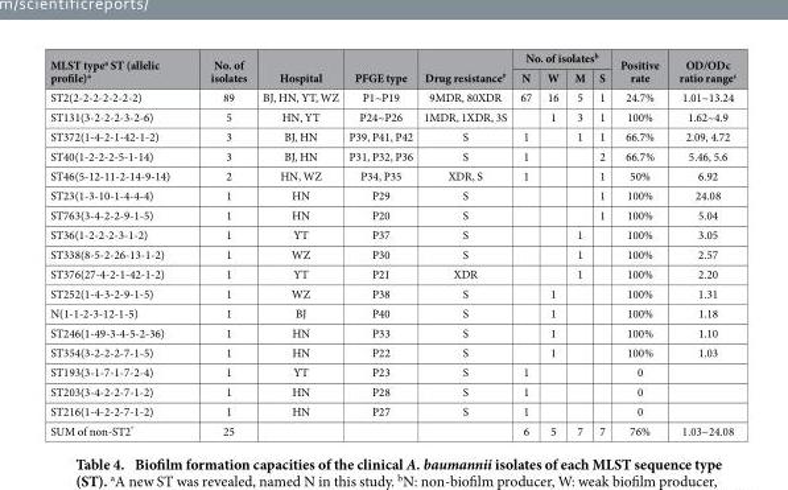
<table><thead><tr><td rowspan="2">MLST type<sup>a</sup> ST (allelic profile)<sup>a</sup></td><td rowspan="2">No. of isolates</td><td rowspan="2">Hospital</td><td rowspan="2">PFGE type</td><td rowspan="2">Drug resistance#</td><td colspan="4">No. of isolates<sup>b</sup></td><td rowspan="2">Positive rate</td><td rowspan="2">OD/ODc ratio range<sup>c</sup></td></tr><tr><td>N</td><td>W</td><td>M</td><td>S</td></tr></thead><tbody><tr><td>ST2(2-2-2-2-2-2-2)</td><td>89</td><td>BJ, HN, YT, WZ</td><td>P1~P19</td><td>9MDR, 80XDR</td><td>67</td><td>16</td><td>5</td><td>1</td><td>24.7%</td><td>1.01~13.24</td></tr><tr><td>ST131(3-2-2-2-3-2-6)</td><td>5</td><td>HN, YT</td><td>P24~P26</td><td>1MDR, 1XDR, 3S</td><td></td><td>1</td><td>3</td><td>1</td><td>100%</td><td>1.62~4.9</td></tr><tr><td>ST372(1-4-2-1-42-1-2)</td><td>3</td><td>BJ, HN</td><td>P39, P41, P42</td><td>S</td><td>1</td><td></td><td>1</td><td>1</td><td>66.7%</td><td>2.09, 4.72</td></tr><tr><td>ST40(1-2-2-2-5-1-14)</td><td>3</td><td>BJ, HN</td><td>P31, P32, P36</td><td>S</td><td>1</td><td></td><td></td><td>2</td><td>66.7%</td><td>5.46, 5.6</td></tr><tr><td>ST46(5-12-11-2-14-9-14)</td><td>2</td><td>HN, WZ</td><td>P34, P35</td><td>XDR, S</td><td>1</td><td></td><td></td><td>1</td><td>50%</td><td>6.92</td></tr><tr><td>ST23(1-3-10-1-4-4-4)</td><td>1</td><td>HN</td><td>P29</td><td>S</td><td></td><td></td><td></td><td>1</td><td>100%</td><td>24.08</td></tr><tr><td>ST763(3-4-2-2-9-1-5)</td><td>1</td><td>HN</td><td>P20</td><td>S</td><td></td><td></td><td></td><td>1</td><td>100%</td><td>5.04</td></tr><tr><td>ST36(1-2-2-2-3-1-2)</td><td>1</td><td>YT</td><td>P37</td><td>S</td><td></td><td></td><td>1</td><td></td><td>100%</td><td>3.05</td></tr><tr><td>ST338(8-5-2-26-13-1-2)</td><td>1</td><td>WZ</td><td>P30</td><td>S</td><td></td><td></td><td>1</td><td></td><td>100%</td><td>2.57</td></tr><tr><td>ST376(27-4-2-1-42-1-2)</td><td>1</td><td>YT</td><td>P21</td><td>XDR</td><td></td><td></td><td>1</td><td></td><td>100%</td><td>2.20</td></tr><tr><td>ST252(1-4-3-2-9-1-5)</td><td>1</td><td>WZ</td><td>P38</td><td>S</td><td></td><td>1</td><td></td><td></td><td>100%</td><td>1.31</td></tr><tr><td>N(1-1-2-3-12-1-5)</td><td>1</td><td>BJ</td><td>P40</td><td>S</td><td></td><td>1</td><td></td><td></td><td>100%</td><td>1.18</td></tr><tr><td>ST246(1-49-3-4-5-2-36)</td><td>1</td><td>HN</td><td>P33</td><td>S</td><td></td><td>1</td><td></td><td></td><td>100%</td><td>1.10</td></tr><tr><td>ST354(3-2-2-2-7-1-5)</td><td>1</td><td>HN</td><td>P22</td><td>S</td><td></td><td>1</td><td></td><td></td><td>100%</td><td>1.03</td></tr><tr><td>ST193(3-1-7-1-7-2-4)</td><td>1</td><td>YT</td><td>P23</td><td>S</td><td>1</td><td></td><td></td><td></td><td>0</td><td></td></tr><tr><td>ST203(3-4-2-2-7-1-2)</td><td>1</td><td>HN</td><td>P28</td><td>S</td><td>1</td><td></td><td></td><td></td><td>0</td><td></td></tr><tr><td>ST216(1-4-2-2-7-1-2)</td><td>1</td><td>HN</td><td>P27</td><td>S</td><td>1</td><td></td><td></td><td></td><td>0</td><td></td></tr><tr><td>SUM of non-ST2*</td><td>25</td><td></td><td></td><td></td><td>6</td><td>5</td><td>7</td><td>7</td><td>76%</td><td>1.03~24.08</td></tr></tbody></table>